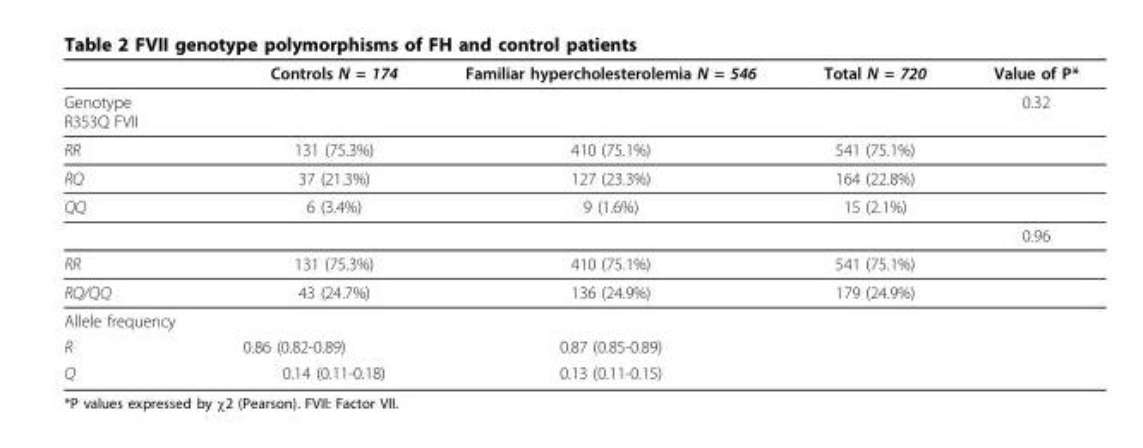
<table><thead><tr><td></td><td>Controls N = 174</td><td>Familiar hypercholesterolemia N = 546</td><td>Total N = 720</td><td>Value of P*</td></tr></thead><tbody><tr><td>Genotype R353Q FVII</td><td></td><td></td><td></td><td>0.32</td></tr><tr><td>RR</td><td>131 (75.3%)</td><td>410 (75.1%)</td><td>541 (75.1%)</td><td></td></tr><tr><td>RQ</td><td>37 (21.3%)</td><td>127 (23.3%)</td><td>164 (22.8%)</td><td></td></tr><tr><td rowspan="2">QQ</td><td>6 (3.4%)</td><td>9 (1.6%)</td><td>15 (2.1%)</td><td></td></tr><tr><td></td><td></td><td></td><td>0.96</td></tr><tr><td>RR</td><td>131 (75.3%)</td><td>410 (75.1%)</td><td>541 (75.1%)</td><td></td></tr><tr><td>RQ/QQ</td><td>43 (24.7%)</td><td>136 (24.9%)</td><td>179 (24.9%)</td><td></td></tr><tr><td colspan="5">Allele frequency</td></tr><tr><td>R</td><td>0.86 (0.82-0.89)</td><td>0.87 (0.85-0.89)</td><td></td><td></td></tr><tr><td>Q</td><td>0.14 (0.11-0.18)</td><td>0.13 (0.11-0.15)</td><td></td><td></td></tr></tbody></table>